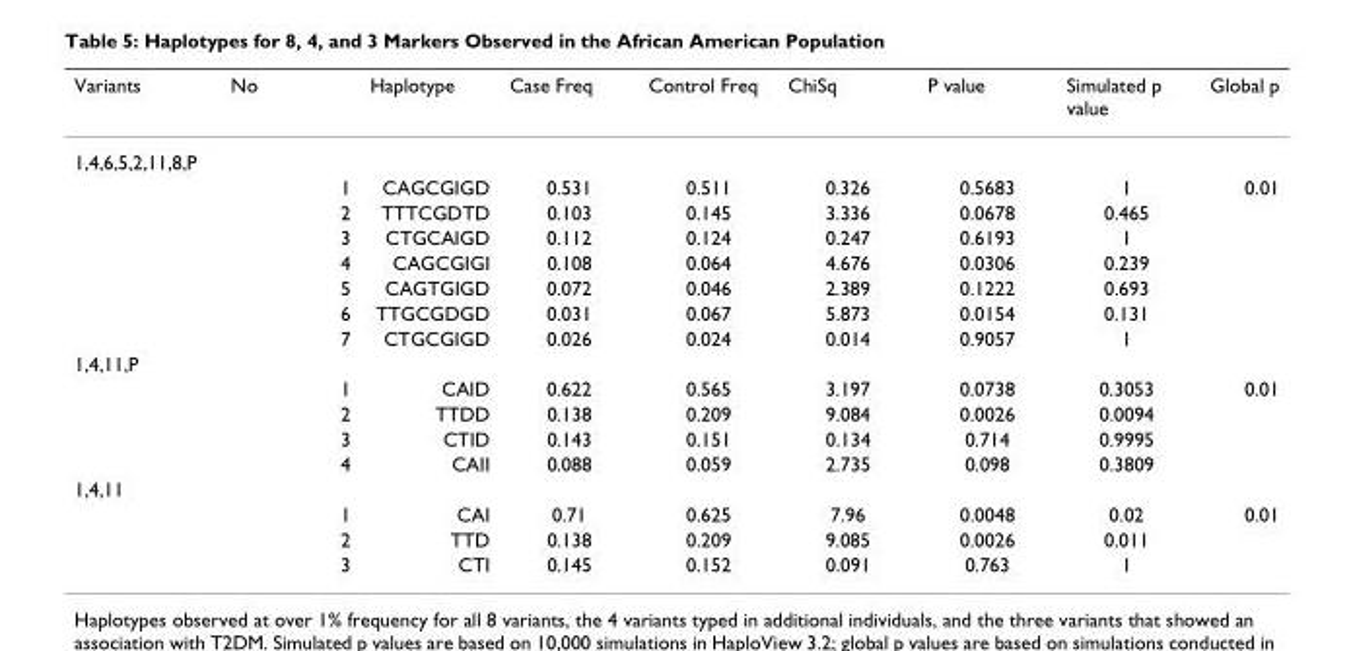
<table><thead><tr><td>Variants</td><td>No</td><td>Haplotype</td><td>Case Freq</td><td>Control Freq</td><td>ChiSq</td><td>P value</td><td>Simulated p value</td><td>Global p</td></tr></thead><tbody><tr><td colspan="9">1,4,6,5,2,11,8,P</td></tr><tr><td></td><td>1</td><td>CAGCGIGD</td><td>0.531</td><td>0.511</td><td>0.326</td><td>0.5683</td><td>1</td><td>0.01</td></tr><tr><td></td><td>2</td><td>TTTCGDTD</td><td>0.103</td><td>0.145</td><td>3.336</td><td>0.0678</td><td>0.465</td><td></td></tr><tr><td></td><td>3</td><td>CTGCAIGD</td><td>0.112</td><td>0.124</td><td>0.247</td><td>0.6193</td><td>1</td><td></td></tr><tr><td></td><td>4</td><td>CAGCGIGI</td><td>0.108</td><td>0.064</td><td>4.676</td><td>0.0306</td><td>0.239</td><td></td></tr><tr><td></td><td>5</td><td>CAGTGIGD</td><td>0.072</td><td>0.046</td><td>2.389</td><td>0.1222</td><td>0.693</td><td></td></tr><tr><td></td><td>6</td><td>TTGCGDGD</td><td>0.031</td><td>0.067</td><td>5.873</td><td>0.0154</td><td>0.131</td><td></td></tr><tr><td></td><td>7</td><td>CTGCGIGD</td><td>0.026</td><td>0.024</td><td>0.014</td><td>0.9057</td><td>1</td><td></td></tr><tr><td colspan="9">1,4,11,P</td></tr><tr><td></td><td>1</td><td>CAID</td><td>0.622</td><td>0.565</td><td>3.197</td><td>0.0738</td><td>0.3053</td><td>0.01</td></tr><tr><td></td><td>2</td><td>TTDD</td><td>0.138</td><td>0.209</td><td>9.084</td><td>0.0026</td><td>0.0094</td><td></td></tr><tr><td></td><td>3</td><td>CTID</td><td>0.143</td><td>0.151</td><td>0.134</td><td>0.714</td><td>0.9995</td><td></td></tr><tr><td></td><td>4</td><td>CAII</td><td>0.088</td><td>0.059</td><td>2.735</td><td>0.098</td><td>0.3809</td><td></td></tr><tr><td colspan="9">1,4,11</td></tr><tr><td></td><td>1</td><td>CAI</td><td>0.71</td><td>0.625</td><td>7.96</td><td>0.0048</td><td>0.02</td><td>0.01</td></tr><tr><td></td><td>2</td><td>TTD</td><td>0.138</td><td>0.209</td><td>9.085</td><td>0.0026</td><td>0.011</td><td></td></tr><tr><td></td><td>3</td><td>CTI</td><td>0.145</td><td>0.152</td><td>0.091</td><td>0.763</td><td>1</td><td></td></tr></tbody></table>